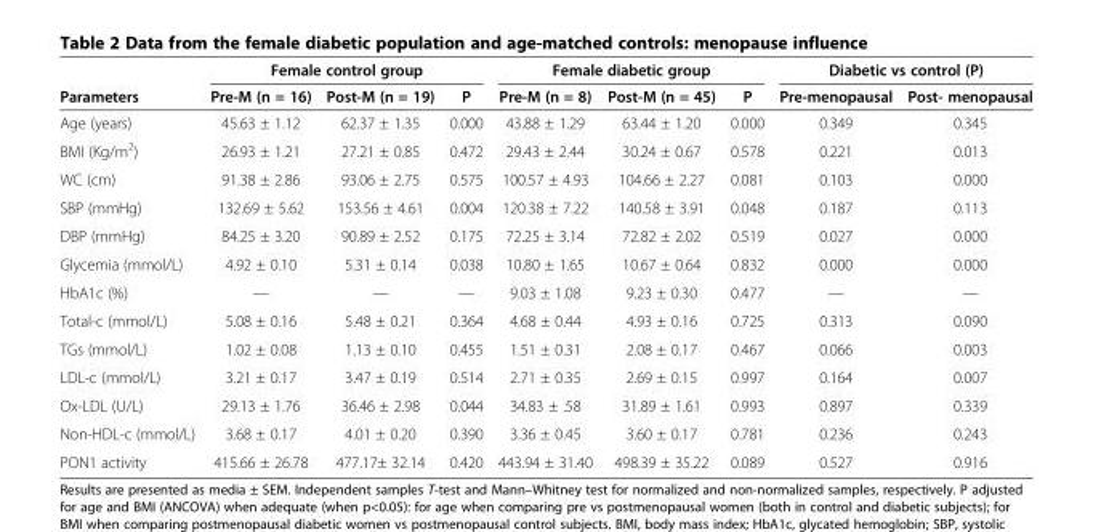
<table><thead><tr><td rowspan="2">Parameters</td><td colspan="3">Female control group</td><td colspan="3">Female diabetic group</td><td colspan="2">Diabetic vs control (P)</td></tr><tr><td>Pre-M (n = 16)</td><td>Post-M (n = 19)</td><td>P</td><td>Pre-M (n = 8)</td><td>Post-M (n = 45)</td><td>P</td><td>Pre-menopausal</td><td>Post- menopausal</td></tr></thead><tbody><tr><td>Age (years)</td><td>45.63 ± 1.12</td><td>62.37 ± 1.35</td><td>0.000</td><td>43.88 ± 1.29</td><td>63.44 ± 1.20</td><td>0.000</td><td>0.349</td><td>0.345</td></tr><tr><td>BMI (Kg/m<sup>2</sup>)</td><td>26.93 ± 1.21</td><td>27.21 ± 0.85</td><td>0.472</td><td>29.43 ± 2.44</td><td>30.24 ± 0.67</td><td>0.578</td><td>0.221</td><td>0.013</td></tr><tr><td>WC (cm)</td><td>91.38 ± 2.86</td><td>93.06 ± 2.75</td><td>0.575</td><td>100.57 ± 4.93</td><td>104.66 ± 2.27</td><td>0.081</td><td>0.103</td><td>0.000</td></tr><tr><td>SBP (mmHg)</td><td>132.69 ± 5.62</td><td>153.56 ± 4.61</td><td>0.004</td><td>120.38 ± 7.22</td><td>140.58 ± 3.91</td><td>0.048</td><td>0.187</td><td>0.113</td></tr><tr><td>DBP (mmHg)</td><td>84.25 ± 3.20</td><td>90.89 ± 2.52</td><td>0.175</td><td>72.25 ± 3.14</td><td>72.82 ± 2.02</td><td>0.519</td><td>0.027</td><td>0.000</td></tr><tr><td>Glycemia (mmol/L)</td><td>4.92 ± 0.10</td><td>5.31 ± 0.14</td><td>0.038</td><td>10.80 ± 1.65</td><td>10.67 ± 0.64</td><td>0.832</td><td>0.000</td><td>0.000</td></tr><tr><td>HbA1c (%)</td><td>—</td><td>—</td><td>—</td><td>9.03 ± 1.08</td><td>9.23 ± 0.30</td><td>0.477</td><td>—</td><td>—</td></tr><tr><td>Total-c (mmol/L)</td><td>5.08 ± 0.16</td><td>5.48 ± 0.21</td><td>0.364</td><td>4.68 ± 0.44</td><td>4.93 ± 0.16</td><td>0.725</td><td>0.313</td><td>0.090</td></tr><tr><td>TGs (mmol/L)</td><td>1.02 ± 0.08</td><td>1.13 ± 0.10</td><td>0.455</td><td>1.51 ± 0.31</td><td>2.08 ± 0.17</td><td>0.467</td><td>0.066</td><td>0.003</td></tr><tr><td>LDL-c (mmol/L)</td><td>3.21 ± 0.17</td><td>3.47 ± 0.19</td><td>0.514</td><td>2.71 ± 0.35</td><td>2.69 ± 0.15</td><td>0.997</td><td>0.164</td><td>0.007</td></tr><tr><td>Ox-LDL (U/L)</td><td>29.13 ± 1.76</td><td>36.46 ± 2.98</td><td>0.044</td><td>34.83 ± .58</td><td>31.89 ± 1.61</td><td>0.993</td><td>0.897</td><td>0.339</td></tr><tr><td>Non-HDL-c (mmol/L)</td><td>3.68 ± 0.17</td><td>4.01 ± 0.20</td><td>0.390</td><td>3.36 ± 0.45</td><td>3.60 ± 0.17</td><td>0.781</td><td>0.236</td><td>0.243</td></tr><tr><td>PON1 activity</td><td>415.66 ± 26.78</td><td>477.17± 32.14</td><td>0.420</td><td>443.94 ± 31.40</td><td>498.39 ± 35.22</td><td>0.089</td><td>0.527</td><td>0.916</td></tr></tbody></table>